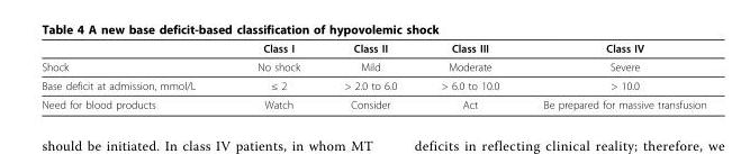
<table><thead><tr><td></td><td>Class I</td><td>Class II</td><td>Class III</td><td>Class IV</td></tr></thead><tbody><tr><td>Shock</td><td>No shock</td><td>Mild</td><td>Moderate</td><td>Severe</td></tr><tr><td>Base deficit at admission, mmol/L</td><td>≤ 2</td><td>&gt; 2.0 to 6.0</td><td>&gt; 6.0 to 10.0</td><td>&gt; 10.0</td></tr><tr><td>Need for blood products</td><td>Watch</td><td>Consider</td><td>Act</td><td>Be prepared for massive transfusion</td></tr></tbody></table>